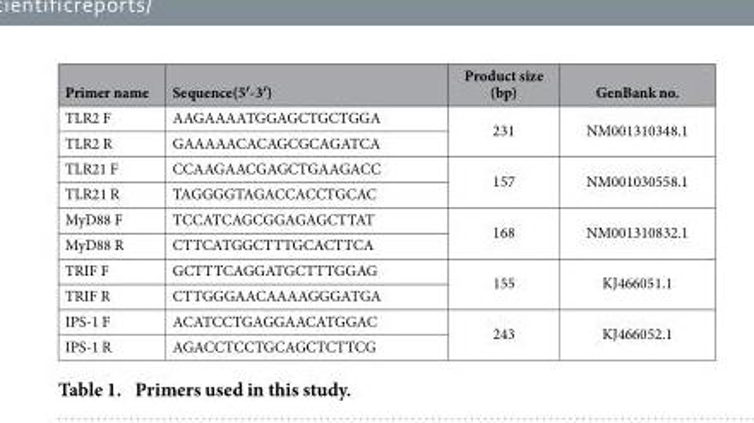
<table><thead><tr><td>Primer name</td><td>Sequence(5′-3′)</td><td>Product size (bp)</td><td>GenBank no.</td></tr></thead><tbody><tr><td>TLR2 F</td><td>AAGAAAATGGAGCTGCTGGA</td><td rowspan="2">231</td><td rowspan="2">NM001310348.1</td></tr><tr><td>TLR2 R</td><td>GAAAAACACAGCGCAGATCA</td></tr><tr><td>TLR21 F</td><td>CCAAGAACGAGCTGAAGACC</td><td rowspan="2">157</td><td rowspan="2">NM001030558.1</td></tr><tr><td>TLR21 R</td><td>TAGGGGTAGACCACCTGCAC</td></tr><tr><td>MyD88 F</td><td>TCCATCAGCGGAGAGCTTAT</td><td rowspan="2">168</td><td rowspan="2">NM001310832.1</td></tr><tr><td>MyD88 R</td><td>CTTCATGGCTTTGCACTTCA</td></tr><tr><td>TRIF F</td><td>GCTTTCAGGATGCTTTGGAG</td><td rowspan="2">155</td><td rowspan="2">KJ466051.1</td></tr><tr><td>TRIF R</td><td>CTTGGGAACAAAAGGGATGA</td></tr><tr><td>IPS-1 F</td><td>ACATCCTGAGGAACATGGAC</td><td rowspan="2">243</td><td rowspan="2">KJ466052.1</td></tr><tr><td>IPS-1 R</td><td>AGACCTCCTGCAGCTCTTCG</td></tr></tbody></table>